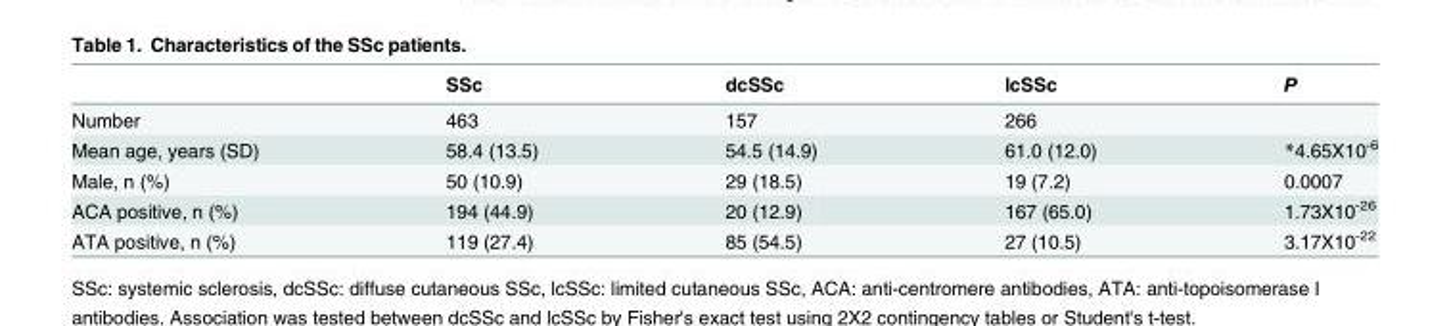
<table><thead><tr><td></td><td>SSc</td><td>dcSSc</td><td>lcSSc</td><td>P</td></tr></thead><tbody><tr><td>Number</td><td>463</td><td>157</td><td>266</td><td></td></tr><tr><td>Mean age, years (SD)</td><td>58.4 (13.5)</td><td>54.5 (14.9)</td><td>61.0 (12.0)</td><td>*4.65X10<sup>-6</sup></td></tr><tr><td>Male, n (%)</td><td>50 (10.9)</td><td>29 (18.5)</td><td>19 (7.2)</td><td>0.0007</td></tr><tr><td>ACA positive, n (%)</td><td>194 (44.9)</td><td>20 (12.9)</td><td>167 (65.0)</td><td>1.73X10<sup>-26</sup></td></tr><tr><td>ATA positive, n (%)</td><td>119 (27.4)</td><td>85 (54.5)</td><td>27 (10.5)</td><td>3.17X10<sup>-22</sup></td></tr></tbody></table>